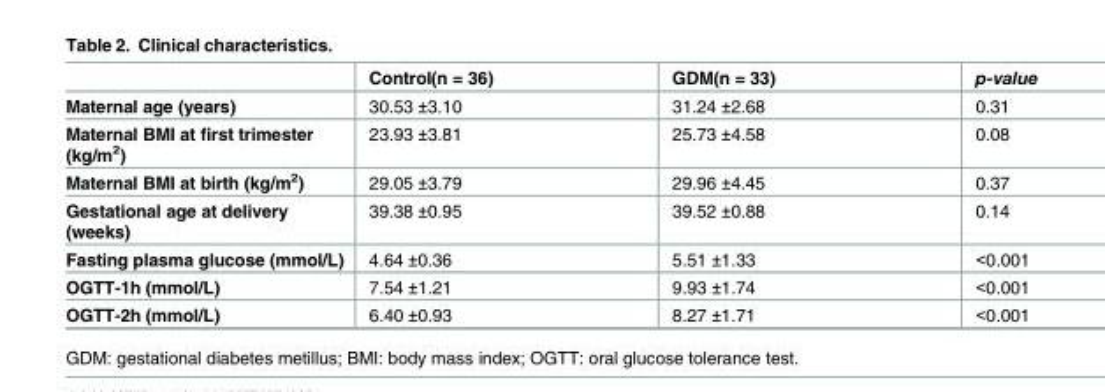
<table><thead><tr><td></td><td>Control(n = 36)</td><td>GDM(n = 33)</td><td>p-value</td></tr></thead><tbody><tr><td>Maternal age (years)</td><td>30.53 ±3.10</td><td>31.24 ±2.68</td><td>0.31</td></tr><tr><td>Maternal BMI at first trimester (kg/m<sup>2</sup>)</td><td>23.93 ±3.81</td><td>25.73 ±4.58</td><td>0.08</td></tr><tr><td>Maternal BMI at birth (kg/m<sup>2</sup>)</td><td>29.05 ±3.79</td><td>29.96 ±4.45</td><td>0.37</td></tr><tr><td>Gestational age at delivery (weeks)</td><td>39.38 ±0.95</td><td>39.52 ±0.88</td><td>0.14</td></tr><tr><td>Fasting plasma glucose (mmol/L)</td><td>4.64 ±0.36</td><td>5.51 ±1.33</td><td>&lt;0.001</td></tr><tr><td>OGTT-1h (mmol/L)</td><td>7.54 ±1.21</td><td>9.93 ±1.74</td><td>&lt;0.001</td></tr><tr><td>OGTT-2h (mmol/L)</td><td>6.40 ±0.93</td><td>8.27 ±1.71</td><td>&lt;0.001</td></tr></tbody></table>